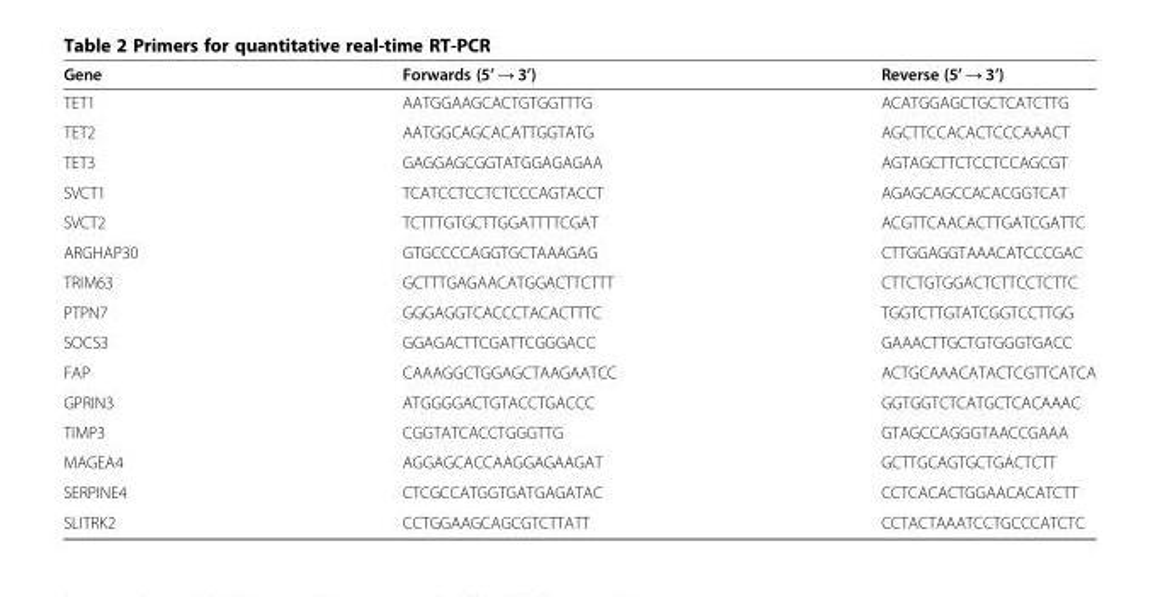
<table><thead><tr><td>Gene</td><td>Forwards (5’ → 3’)</td><td>Reverse (5’ → 3’)</td></tr></thead><tbody><tr><td>TET1</td><td>AATGGAAGCACTGTGGTTTG</td><td>ACATGGAGCTGCTCATCTTG</td></tr><tr><td>TET2</td><td>AATGGCAGCACATTGGTATG</td><td>AGCTTCCACACTCCCAAACT</td></tr><tr><td>TET3</td><td>GAGGAGCGGTATGGAGAGAA</td><td>AGTAGCTTCTCCTCCAGCGT</td></tr><tr><td>SVCT1</td><td>TCATCCTCCTCTCCCAGTACCT</td><td>AGAGCAGCCACACGGTCAT</td></tr><tr><td>SVCT2</td><td>TCTTTGTGCTTGGATTTTCGAT</td><td>ACGTTCAACACTTGATCGATTC</td></tr><tr><td>ARGHAP30</td><td>GTGCCCCAGGTGCTAAAGAG</td><td>CTTGGAGGTAAACATCCCGAC</td></tr><tr><td>TRIM63</td><td>GCTTTGAGAACATGGACTTCTTT</td><td>CTTCTGTGGACTCTTCCTCTTC</td></tr><tr><td>PTPN7</td><td>GGGAGGTCACCCTACACTTTC</td><td>TGGTCTTGTATCGGTCCTTGG</td></tr><tr><td>SOCS3</td><td>GGAGACTTCGATTCGGGACC</td><td>GAAACTTGCTGTGGGTGACC</td></tr><tr><td>FAP</td><td>CAAAGGCTGGAGCTAAGAATCC</td><td>ACTGCAAACATACTCGTTCATCA</td></tr><tr><td>GPRIN3</td><td>ATGGGGACTGTACCTGACCC</td><td>GGTGGTCTCATGCTCACAAAC</td></tr><tr><td>TIMP3</td><td>CGGTATCACCTGGGTTG</td><td>GTAGCCAGGGTAACCGAAA</td></tr><tr><td>MAGEA4</td><td>AGGAGCACCAAGGAGAAGAT</td><td>GCTTGCAGTGCTGACTCTT</td></tr><tr><td>SERPINE4</td><td>CTCGCCATGGTGATGAGATAC</td><td>CCTCACACTGGAACACATCTT</td></tr><tr><td>SLITRK2</td><td>CCTGGAAGCAGCGTCTTATT</td><td>CCTACTAAATCCTGCCCATCTC</td></tr></tbody></table>